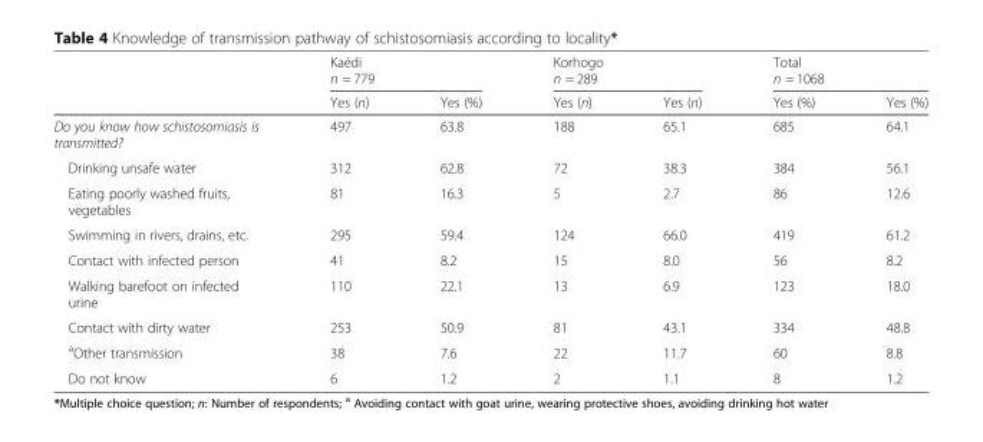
<table><thead><tr><td rowspan="2"></td><td colspan="2">Kaédi n = 779</td><td colspan="2">Korhogo n = 289</td><td colspan="2">Total n = 1068</td></tr><tr><td>Yes (n)</td><td>Yes (%)</td><td>Yes (n)</td><td>Yes (n)</td><td>Yes (%)</td><td>Yes (%)</td></tr></thead><tbody><tr><td>Do you know how schistosomiasis is transmitted?</td><td>497</td><td>63.8</td><td>188</td><td>65.1</td><td>685</td><td>64.1</td></tr><tr><td>Drinking unsafe water</td><td>312</td><td>62.8</td><td>72</td><td>38.3</td><td>384</td><td>56.1</td></tr><tr><td>Eating poorly washed fruits, vegetables</td><td>81</td><td>16.3</td><td>5</td><td>2.7</td><td>86</td><td>12.6</td></tr><tr><td>Swimming in rivers, drains, etc.</td><td>295</td><td>59.4</td><td>124</td><td>66.0</td><td>419</td><td>61.2</td></tr><tr><td>Contact with infected person</td><td>41</td><td>8.2</td><td>15</td><td>8.0</td><td>56</td><td>8.2</td></tr><tr><td>Walking barefoot on infected urine</td><td>110</td><td>22.1</td><td>13</td><td>6.9</td><td>123</td><td>18.0</td></tr><tr><td>Contact with dirty water</td><td>253</td><td>50.9</td><td>81</td><td>43.1</td><td>334</td><td>48.8</td></tr><tr><td><sup>a</sup>Other transmission</td><td>38</td><td>7.6</td><td>22</td><td>11.7</td><td>60</td><td>8.8</td></tr><tr><td>Do not know</td><td>6</td><td>1.2</td><td>2</td><td>1.1</td><td>8</td><td>1.2</td></tr></tbody></table>